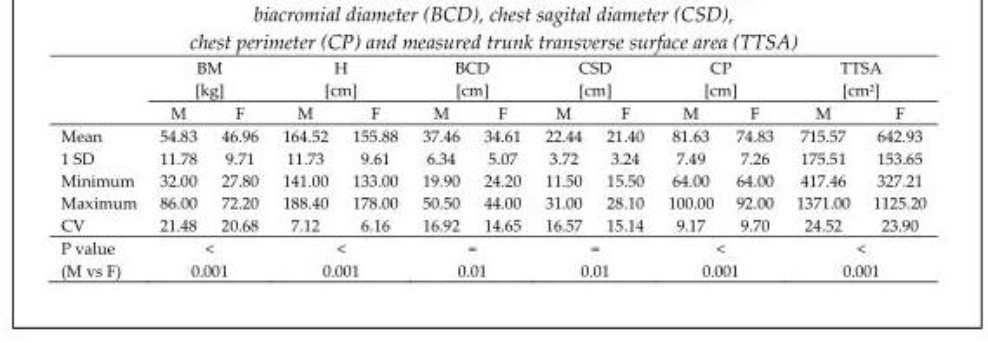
<table><thead><tr><td rowspan="2"></td><td colspan="2">BM [kg]</td><td colspan="2">H [cm]</td><td colspan="2">BCD [cm]</td><td colspan="2">CSD [cm]</td><td colspan="2">CP [cm]</td><td colspan="2">TTSA [cm<sup>2</sup>]</td></tr><tr><td>M</td><td>F</td><td>M</td><td>F</td><td>M</td><td>F</td><td>M</td><td>F</td><td>M</td><td>F</td><td>M</td><td>F</td></tr></thead><tbody><tr><td>Mean</td><td>54.83</td><td>46.96</td><td>164.52</td><td>155.88</td><td>37.46</td><td>34.61</td><td>22.44</td><td>21.40</td><td>81.63</td><td>74.83</td><td>715.57</td><td>642.93</td></tr><tr><td>1 SD</td><td>11.78</td><td>9.71</td><td>11.73</td><td>9.61</td><td>6.34</td><td>5.07</td><td>3.72</td><td>3.24</td><td>7.49</td><td>7.26</td><td>175.51</td><td>153.65</td></tr><tr><td>Minimum</td><td>32.00</td><td>27.80</td><td>141.00</td><td>133.00</td><td>19.90</td><td>24.20</td><td>11.50</td><td>15.50</td><td>64.00</td><td>64.00</td><td>417.46</td><td>327.21</td></tr><tr><td>Maximum</td><td>86.00</td><td>72.20</td><td>188.40</td><td>178.00</td><td>50.50</td><td>44.00</td><td>31.00</td><td>28.10</td><td>100.00</td><td>92.00</td><td>1371.00</td><td>1125.20</td></tr><tr><td>CV</td><td>21.48</td><td>20.68</td><td>7.12</td><td>6.16</td><td>16.92</td><td>14.65</td><td>16.57</td><td>15.14</td><td>9.17</td><td>9.70</td><td>24.52</td><td>23.90</td></tr><tr><td>P value (M vs F)</td><td colspan="2">&lt; 0.001</td><td colspan="2">&lt; 0.001</td><td colspan="2">= 0.01</td><td colspan="2">= 0.01</td><td colspan="2">&lt; 0.001</td><td colspan="2">&lt; 0.001</td></tr></tbody></table>